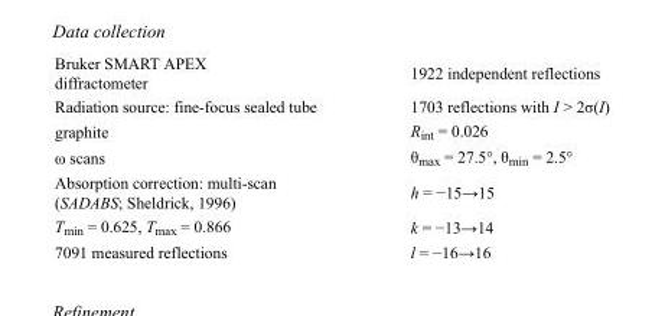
<table><tbody><tr><td>Bruker SMART APEX diffractometer</td><td>1922 independent reflections</td></tr><tr><td>Radiation source: fine-focus sealed tube</td><td>1703 reflections with I &gt; 2σ(I)</td></tr><tr><td>graphite</td><td>R<sub>int</sub> = 0.026</td></tr><tr><td>ω scans</td><td>θ<sub>max</sub> = 27.5°, θ<sub>min</sub> = 2.5°</td></tr><tr><td>Absorption correction: multi-scan (SADABS; Sheldrick, 1996)</td><td>h = −15→15</td></tr><tr><td>T<sub>min</sub> = 0.625, T<sub>max</sub> = 0.866</td><td>k = −13→14</td></tr><tr><td>7091 measured reflections</td><td>l = −16→16</td></tr></tbody></table>